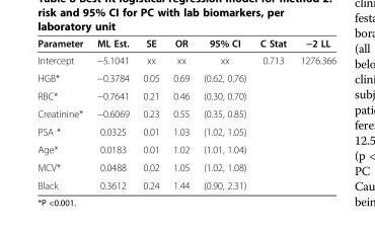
<table><thead><tr><td>Parameter</td><td>ML Est.</td><td>SE</td><td>OR</td><td>95% CI</td><td>C Stat</td><td>−2 LL</td></tr></thead><tbody><tr><td>Intercept</td><td>−5.1041</td><td>xx</td><td>xx</td><td>xx</td><td>0.713</td><td>1276.366</td></tr><tr><td>HGB*</td><td>−0.3784</td><td>0.05</td><td>0.69</td><td>(0.62, 0.76)</td><td></td><td></td></tr><tr><td>RBC*</td><td>−0.7641</td><td>0.21</td><td>0.46</td><td>(0.30, 0.70)</td><td></td><td></td></tr><tr><td>Creatinine*</td><td>−0.6069</td><td>0.23</td><td>0.55</td><td>(0.35, 0.85)</td><td></td><td></td></tr><tr><td>PSA *</td><td>0.0325</td><td>0.01</td><td>1.03</td><td>(1.02, 1.05)</td><td></td><td></td></tr><tr><td>Age*</td><td>0.0183</td><td>0.01</td><td>1.02</td><td>(1.01, 1.04)</td><td></td><td></td></tr><tr><td>MCV*</td><td>0.0488</td><td>0.02</td><td>1.05</td><td>(1.02, 1.08)</td><td></td><td></td></tr><tr><td>Black</td><td>0.3612</td><td>0.24</td><td>1.44</td><td>(0.90, 2.31)</td><td></td><td></td></tr></tbody></table>